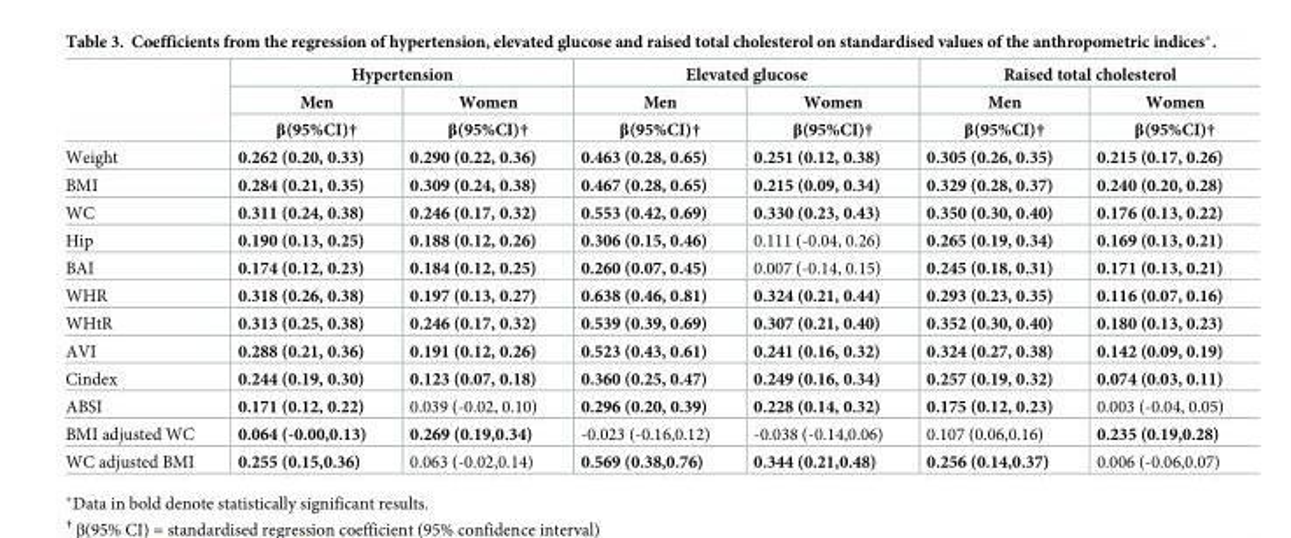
<table><thead><tr><td rowspan="3"></td><td colspan="2">Hypertension</td><td colspan="2">Elevated glucose</td><td colspan="2">Raised total cholesterol</td></tr><tr><td rowspan="2">Men β(95%CI)†</td><td rowspan="2">Women β(95%CI)†</td><td rowspan="2">Men β(95%CI)†</td><td rowspan="2">Women β(95%CI)†</td><td rowspan="2">Men β(95%CI)†</td><td rowspan="2">Women β(95%CI)†</td></tr><tr></tr></thead><tbody><tr><td>Weight</td><td>0.262 (0.20, 0.33)</td><td>0.290 (0.22, 0.36)</td><td>0.463 (0.28, 0.65)</td><td>0.251 (0.12, 0.38)</td><td>0.305 (0.26, 0.35)</td><td>0.215 (0.17, 0.26)</td></tr><tr><td>BMI</td><td>0.284 (0.21, 0.35)</td><td>0.309 (0.24, 0.38)</td><td>0.467 (0.28, 0.65)</td><td>0.215 (0.09, 0.34)</td><td>0.329 (0.28, 0.37)</td><td>0.240 (0.20, 0.28)</td></tr><tr><td>WC</td><td>0.311 (0.24, 0.38)</td><td>0.246 (0.17, 0.32)</td><td>0.553 (0.42, 0.69)</td><td>0.330 (0.23, 0.43)</td><td>0.350 (0.30, 0.40)</td><td>0.176 (0.13, 0.22)</td></tr><tr><td>Hip</td><td>0.190 (0.13, 0.25)</td><td>0.188 (0.12, 0.26)</td><td>0.306 (0.15, 0.46)</td><td>0.111 (-0.04, 0.26)</td><td>0.265 (0.19, 0.34)</td><td>0.169 (0.13, 0.21)</td></tr><tr><td>BAI</td><td>0.174 (0.12, 0.23)</td><td>0.184 (0.12, 0.25)</td><td>0.260 (0.07, 0.45)</td><td>0.007 (-0.14, 0.15)</td><td>0.245 (0.18, 0.31)</td><td>0.171 (0.13, 0.21)</td></tr><tr><td>WHR</td><td>0.318 (0.26, 0.38)</td><td>0.197 (0.13, 0.27)</td><td>0.638 (0.46, 0.81)</td><td>0.324 (0.21, 0.44)</td><td>0.293 (0.23, 0.35)</td><td>0.116 (0.07, 0.16)</td></tr><tr><td>WHtR</td><td>0.313 (0.25, 0.38)</td><td>0.246 (0.17, 0.32)</td><td>0.539 (0.39, 0.69)</td><td>0.307 (0.21, 0.40)</td><td>0.352 (0.30, 0.40)</td><td>0.180 (0.13, 0.23)</td></tr><tr><td>AVI</td><td>0.288 (0.21, 0.36)</td><td>0.191 (0.12, 0.26)</td><td>0.523 (0.43, 0.61)</td><td>0.241 (0.16, 0.32)</td><td>0.324 (0.27, 0.38)</td><td>0.142 (0.09, 0.19)</td></tr><tr><td>Cindex</td><td>0.244 (0.19, 0.30)</td><td>0.123 (0.07, 0.18)</td><td>0.360 (0.25, 0.47)</td><td>0.249 (0.16, 0.34)</td><td>0.257 (0.19, 0.32)</td><td>0.074 (0.03, 0.11)</td></tr><tr><td>ABSI</td><td>0.171 (0.12, 0.22)</td><td>0.039 (-0.02, 0.10)</td><td>0.296 (0.20, 0.39)</td><td>0.228 (0.14, 0.32)</td><td>0.175 (0.12, 0.23)</td><td>0.003 (-0.04, 0.05)</td></tr><tr><td>BMI adjusted WC</td><td>0.064 (-0.00,0.13)</td><td>0.269 (0.19,0.34)</td><td>-0.023 (-0.16,0.12)</td><td>-0.038 (-0.14,0.06)</td><td>0.107 (0.06,0.16)</td><td>0.235 (0.19,0.28)</td></tr><tr><td>WC adjusted BMI</td><td>0.255 (0.15,0.36)</td><td>0.063 (-0.02,0.14)</td><td>0.569 (0.38,0.76)</td><td>0.344 (0.21,0.48)</td><td>0.256 (0.14,0.37)</td><td>0.006 (-0.06,0.07)</td></tr></tbody></table>